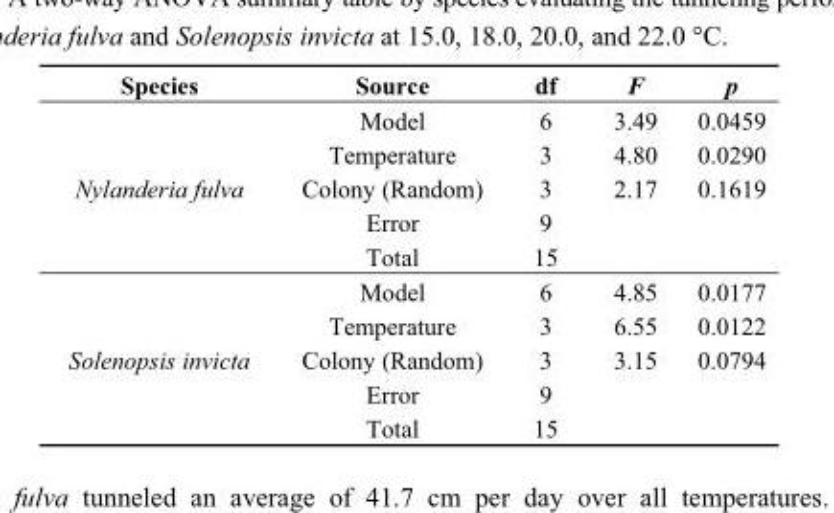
<table><thead><tr><td>Species</td><td>Source</td><td>df</td><td>F</td><td>p</td></tr></thead><tbody><tr><td rowspan="5">Nylanderia fulva</td><td>Model</td><td>6</td><td>3.49</td><td>0.0459</td></tr><tr><td>Temperature</td><td>3</td><td>4.80</td><td>0.0290</td></tr><tr><td>Colony (Random)</td><td>3</td><td>2.17</td><td>0.1619</td></tr><tr><td>Error</td><td>9</td><td></td><td></td></tr><tr><td>Total</td><td>15</td><td></td><td></td></tr><tr><td rowspan="5">Solenopsis invicta</td><td>Model</td><td>6</td><td>4.85</td><td>0.0177</td></tr><tr><td>Temperature</td><td>3</td><td>6.55</td><td>0.0122</td></tr><tr><td>Colony (Random)</td><td>3</td><td>3.15</td><td>0.0794</td></tr><tr><td>Error</td><td>9</td><td></td><td></td></tr><tr><td>Total</td><td>15</td><td></td><td></td></tr></tbody></table>